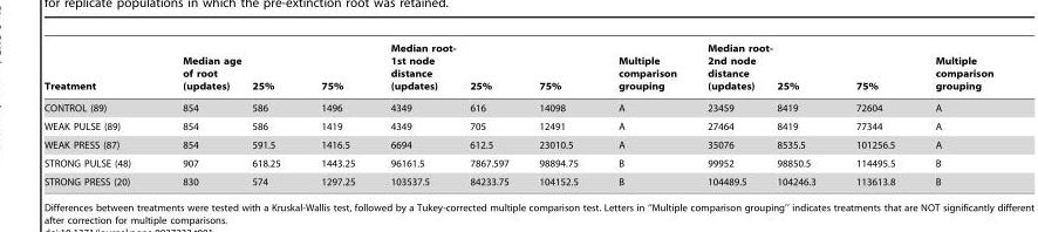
<table><thead><tr><td>Treatment</td><td>Median age of root (updates)</td><td>25%</td><td>75%</td><td>Median root- 1st node distance (updates)</td><td>25%</td><td>75%</td><td>Multiple comparison grouping</td><td>Median root- 2nd node distance (updates)</td><td>25%</td><td>75%</td><td>Multiple comparison grouping</td></tr></thead><tbody><tr><td>CONTROL (89)</td><td>854</td><td>586</td><td>1496</td><td>4349</td><td>616</td><td>14098</td><td>A</td><td>23459</td><td>8419</td><td>72604</td><td>A</td></tr><tr><td>WEAK PULSE (89)</td><td>854</td><td>586</td><td>1419</td><td>4349</td><td>705</td><td>12491</td><td>A</td><td>27464</td><td>8419</td><td>77344</td><td>A</td></tr><tr><td>WEAK PRESS (87)</td><td>854</td><td>591.5</td><td>1416.5</td><td>6694</td><td>612.5</td><td>23010.5</td><td>A</td><td>35076</td><td>8535.5</td><td>101256.5</td><td>A</td></tr><tr><td>STRONG PULSE (48)</td><td>907</td><td>618.25</td><td>1443.25</td><td>96161.5</td><td>7867.597</td><td>98894.75</td><td>B</td><td>99952</td><td>98850.5</td><td>114495.5</td><td>B</td></tr><tr><td>STRONG PRESS (20)</td><td>830</td><td>574</td><td>1297.25</td><td>103537.5</td><td>84233.75</td><td>104152.5</td><td>B</td><td>104489.5</td><td>104246.3</td><td>113613.8</td><td>B</td></tr></tbody></table>